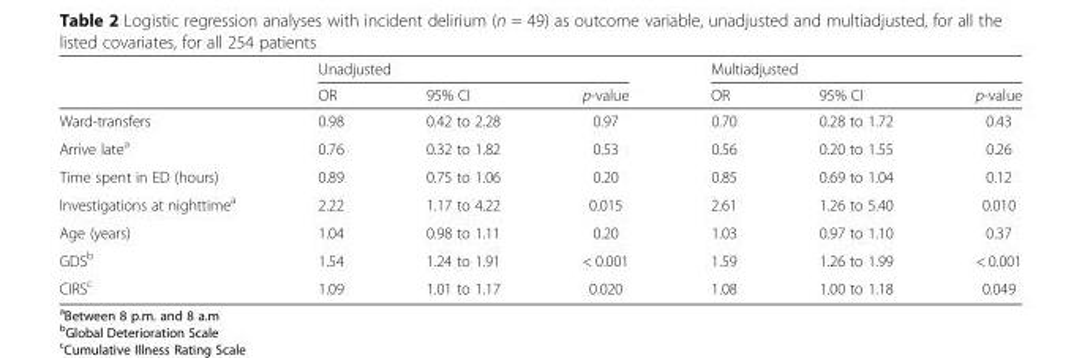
<table><thead><tr><td rowspan="2"></td><td colspan="3">Unadjusted</td><td colspan="3">Multiadjusted</td></tr><tr><td>OR</td><td>95% CI</td><td>p-value</td><td>OR</td><td>95% CI</td><td>p-value</td></tr></thead><tbody><tr><td>Ward-transfers</td><td>0.98</td><td>0.42 to 2.28</td><td>0.97</td><td>0.70</td><td>0.28 to 1.72</td><td>0.43</td></tr><tr><td>Arrive late<sup>a</sup></td><td>0.76</td><td>0.32 to 1.82</td><td>0.53</td><td>0.56</td><td>0.20 to 1.55</td><td>0.26</td></tr><tr><td>Time spent in ED (hours)</td><td>0.89</td><td>0.75 to 1.06</td><td>0.20</td><td>0.85</td><td>0.69 to 1.04</td><td>0.12</td></tr><tr><td>Investigations at nighttime<sup>a</sup></td><td>2.22</td><td>1.17 to 4.22</td><td>0.015</td><td>2.61</td><td>1.26 to 5.40</td><td>0.010</td></tr><tr><td>Age (years)</td><td>1.04</td><td>0.98 to 1.11</td><td>0.20</td><td>1.03</td><td>0.97 to 1.10</td><td>0.37</td></tr><tr><td>GDS<sup>b</sup></td><td>1.54</td><td>1.24 to 1.91</td><td>&lt; 0.001</td><td>1.59</td><td>1.26 to 1.99</td><td>&lt; 0.001</td></tr><tr><td>CIRS<sup>c</sup></td><td>1.09</td><td>1.01 to 1.17</td><td>0.020</td><td>1.08</td><td>1.00 to 1.18</td><td>0.049</td></tr></tbody></table>